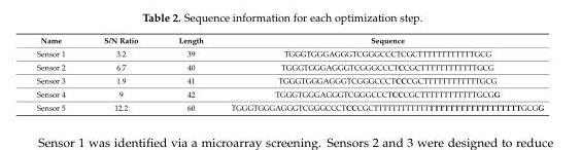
<table><thead><tr><td>Name</td><td>S/N Ratio</td><td>Length</td><td>Sequence</td></tr></thead><tbody><tr><td>Sensor 1</td><td>3.2</td><td>39</td><td>TGGGTGGGAGGGTCGGGCCCTCGCTTTTTTTTTTTTGCG</td></tr><tr><td>Sensor 2</td><td>6.7</td><td>40</td><td>TGGGTGGGAGGGTCGGGCCCTCCGCTTTTTTTTTTTTGCG</td></tr><tr><td>Sensor 3</td><td>1.9</td><td>41</td><td>TGGGTGGGAGGGTCGGGCCCTCCCGCTTTTTTTTTTTTGCG</td></tr><tr><td>Sensor 4</td><td>9</td><td>42</td><td>TGGGTGGGAGGGTCGGGCCCTCCCGCTTTTTTTTTTTTGCGG</td></tr><tr><td>Sensor 5</td><td>12.2</td><td>60</td><td>TGGGTGGGAGGGTCGGGCCCTCCCGCTTTTTTTTTTTTTTTTTTTTTTTTTTTTTTGCGG</td></tr></tbody></table>